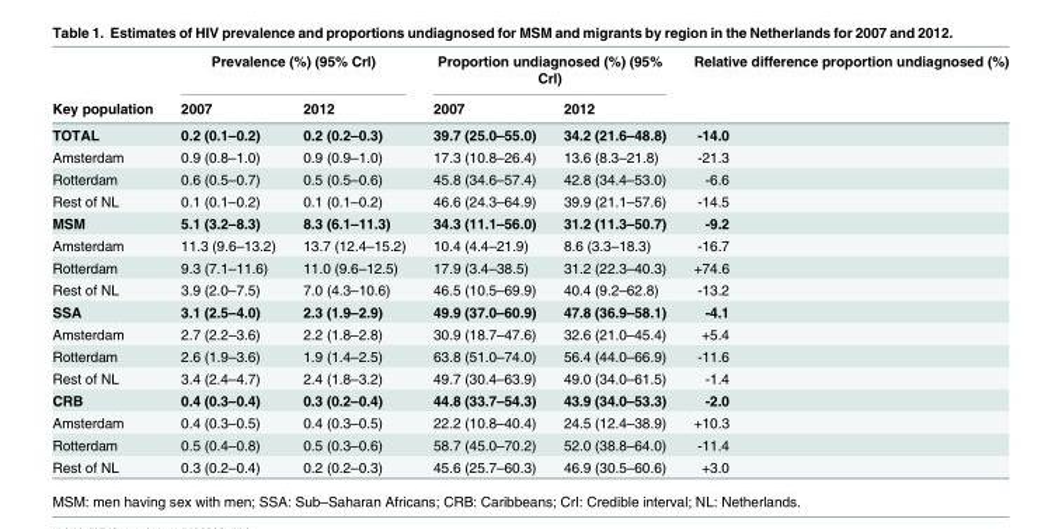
<table><thead><tr><td rowspan="2">Key population</td><td colspan="2">Prevalence (%) (95% Crl)</td><td colspan="2">Proportion undiagnosed (%) (95% Crl)</td><td rowspan="2">Relative difference proportion undiagnosed (%)</td></tr><tr><td>2007</td><td>2012</td><td>2007</td><td>2012</td></tr></thead><tbody><tr><td>TOTAL</td><td>0.2 (0.1–0.2)</td><td>0.2 (0.2–0.3)</td><td>39.7 (25.0–55.0)</td><td>34.2 (21.6–48.8)</td><td>-14.0</td></tr><tr><td>Amsterdam</td><td>0.9 (0.8–1.0)</td><td>0.9 (0.9–1.0)</td><td>17.3 (10.8–26.4)</td><td>13.6 (8.3–21.8)</td><td>-21.3</td></tr><tr><td>Rotterdam</td><td>0.6 (0.5–0.7)</td><td>0.5 (0.5–0.6)</td><td>45.8 (34.6–57.4)</td><td>42.8 (34.4–53.0)</td><td>-6.6</td></tr><tr><td>Rest of NL</td><td>0.1 (0.1–0.2)</td><td>0.1 (0.1–0.2)</td><td>46.6 (24.3–64.9)</td><td>39.9 (21.1–57.6)</td><td>-14.5</td></tr><tr><td>MSM</td><td>5.1 (3.2–8.3)</td><td>8.3 (6.1–11.3)</td><td>34.3 (11.1–56.0)</td><td>31.2 (11.3–50.7)</td><td>-9.2</td></tr><tr><td>Amsterdam</td><td>11.3 (9.6–13.2)</td><td>13.7 (12.4–15.2)</td><td>10.4 (4.4–21.9)</td><td>8.6 (3.3–18.3)</td><td>-16.7</td></tr><tr><td>Rotterdam</td><td>9.3 (7.1–11.6)</td><td>11.0 (9.6–12.5)</td><td>17.9 (3.4–38.5)</td><td>31.2 (22.3–40.3)</td><td>+74.6</td></tr><tr><td>Rest of NL</td><td>3.9 (2.0–7.5)</td><td>7.0 (4.3–10.6)</td><td>46.5 (10.5–69.9)</td><td>40.4 (9.2–62.8)</td><td>-13.2</td></tr><tr><td>SSA</td><td>3.1 (2.5–4.0)</td><td>2.3 (1.9–2.9)</td><td>49.9 (37.0–60.9)</td><td>47.8 (36.9–58.1)</td><td>-4.1</td></tr><tr><td>Amsterdam</td><td>2.7 (2.2–3.6)</td><td>2.2 (1.8–2.8)</td><td>30.9 (18.7–47.6)</td><td>32.6 (21.0–45.4)</td><td>+5.4</td></tr><tr><td>Rotterdam</td><td>2.6 (1.9–3.6)</td><td>1.9 (1.4–2.5)</td><td>63.8 (51.0–74.0)</td><td>56.4 (44.0–66.9)</td><td>-11.6</td></tr><tr><td>Rest of NL</td><td>3.4 (2.4–4.7)</td><td>2.4 (1.8–3.2)</td><td>49.7 (30.4–63.9)</td><td>49.0 (34.0–61.5)</td><td>-1.4</td></tr><tr><td>CRB</td><td>0.4 (0.3–0.4)</td><td>0.3 (0.2–0.4)</td><td>44.8 (33.7–54.3)</td><td>43.9 (34.0–53.3)</td><td>-2.0</td></tr><tr><td>Amsterdam</td><td>0.4 (0.3–0.5)</td><td>0.4 (0.3–0.5)</td><td>22.2 (10.8–40.4)</td><td>24.5 (12.4–38.9)</td><td>+10.3</td></tr><tr><td>Rotterdam</td><td>0.5 (0.4–0.8)</td><td>0.5 (0.3–0.6)</td><td>58.7 (45.0–70.2)</td><td>52.0 (38.8–64.0)</td><td>-11.4</td></tr><tr><td>Rest of NL</td><td>0.3 (0.2–0.4)</td><td>0.2 (0.2–0.3)</td><td>45.6 (25.7–60.3)</td><td>46.9 (30.5–60.6)</td><td>+3.0</td></tr></tbody></table>